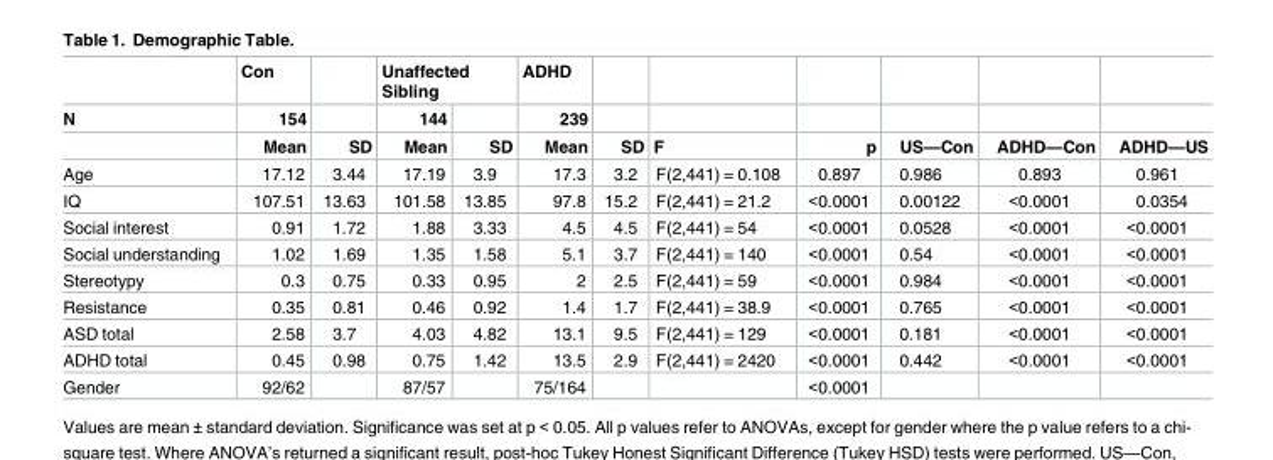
<table><thead><tr><td rowspan="3">N</td><td rowspan="3">Con 154 Mean</td><td rowspan="3">SD</td><td colspan="2">Unaffected Sibling</td><td rowspan="3">ADHD 239 Mean</td><td rowspan="3">SD</td><td rowspan="3">F</td><td rowspan="3">p</td><td rowspan="3">US—Con</td><td rowspan="3">ADHD—Con</td><td rowspan="3">ADHD—US</td></tr><tr><td rowspan="2">144 Mean</td><td rowspan="2">SD</td></tr><tr></tr></thead><tbody><tr><td>Age</td><td>17.12</td><td>3.44</td><td>17.19</td><td>3.9</td><td>17.3</td><td>3.2</td><td>F(2,441) = 0.108</td><td>0.897</td><td>0.986</td><td>0.893</td><td>0.961</td></tr><tr><td>IQ</td><td>107.51</td><td>13.63</td><td>101.58</td><td>13.85</td><td>97.8</td><td>15.2</td><td>F(2,441) = 21.2</td><td>&lt;0.0001</td><td>0.00122</td><td>&lt;0.0001</td><td>0.0354</td></tr><tr><td>Social interest</td><td>0.91</td><td>1.72</td><td>1.88</td><td>3.33</td><td>4.5</td><td>4.5</td><td>F(2,441) = 54</td><td>&lt;0.0001</td><td>0.0528</td><td>&lt;0.0001</td><td>&lt;0.0001</td></tr><tr><td>Social understanding</td><td>1.02</td><td>1.69</td><td>1.35</td><td>1.58</td><td>5.1</td><td>3.7</td><td>F(2,441) = 140</td><td>&lt;0.0001</td><td>0.54</td><td>&lt;0.0001</td><td>&lt;0.0001</td></tr><tr><td>Stereotypy</td><td>0.3</td><td>0.75</td><td>0.33</td><td>0.95</td><td>2</td><td>2.5</td><td>F(2,441) = 59</td><td>&lt;0.0001</td><td>0.984</td><td>&lt;0.0001</td><td>&lt;0.0001</td></tr><tr><td>Resistance</td><td>0.35</td><td>0.81</td><td>0.46</td><td>0.92</td><td>1.4</td><td>1.7</td><td>F(2,441) = 38.9</td><td>&lt;0.0001</td><td>0.765</td><td>&lt;0.0001</td><td>&lt;0.0001</td></tr><tr><td>ASD total</td><td>2.58</td><td>3.7</td><td>4.03</td><td>4.82</td><td>13.1</td><td>9.5</td><td>F(2,441) = 129</td><td>&lt;0.0001</td><td>0.181</td><td>&lt;0.0001</td><td>&lt;0.0001</td></tr><tr><td>ADHD total</td><td>0.45</td><td>0.98</td><td>0.75</td><td>1.42</td><td>13.5</td><td>2.9</td><td>F(2,441) = 2420</td><td>&lt;0.0001</td><td>0.442</td><td>&lt;0.0001</td><td>&lt;0.0001</td></tr><tr><td>Gender</td><td>92/62</td><td></td><td>87/57</td><td></td><td>75/164</td><td></td><td></td><td>&lt;0.0001</td><td></td><td></td><td></td></tr></tbody></table>